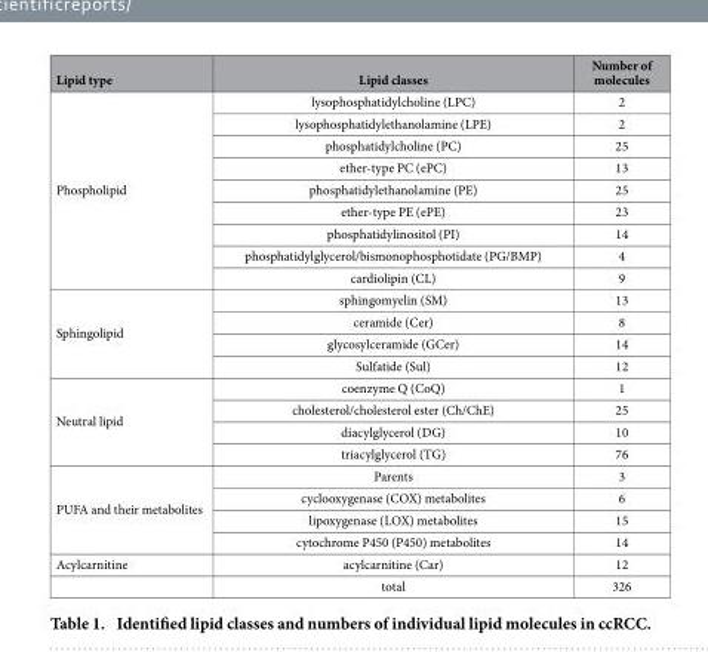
<table><thead><tr><td>Lipid type</td><td>Lipid classes</td><td>Number of molecules</td></tr></thead><tbody><tr><td rowspan="9">Phospholipid</td><td>lysophosphatidylcholine (LPC)</td><td>2</td></tr><tr><td>lysophosphatidylethanolamine (LPE)</td><td>2</td></tr><tr><td>phosphatidylcholine (PC)</td><td>25</td></tr><tr><td>ether-type PC (ePC)</td><td>13</td></tr><tr><td>phosphatidylethanolamine (PE)</td><td>25</td></tr><tr><td>ether-type PE (ePE)</td><td>23</td></tr><tr><td>phosphatidylinositol (PI)</td><td>14</td></tr><tr><td>phosphatidylglycerol/bismonophosphotidate (PG/BMP)</td><td>4</td></tr><tr><td>cardiolipin (CL)</td><td>9</td></tr><tr><td rowspan="4">Sphingolipid</td><td>sphingomyelin (SM)</td><td>13</td></tr><tr><td>ceramide (Cer)</td><td>8</td></tr><tr><td>glycosylceramide (GCer)</td><td>14</td></tr><tr><td>Sulfatide (Sul)</td><td>12</td></tr><tr><td rowspan="4">Neutral lipid</td><td>coenzyme Q (CoQ)</td><td>1</td></tr><tr><td>cholesterol/cholesterol ester (Ch/ChE)</td><td>25</td></tr><tr><td>diacylglycerol (DG)</td><td>10</td></tr><tr><td>triacylglycerol (TG)</td><td>76</td></tr><tr><td rowspan="4">PUFA and their metabolites</td><td>Parents</td><td>3</td></tr><tr><td>cyclooxygenase (COX) metabolites</td><td>6</td></tr><tr><td>lipoxygenase (LOX) metabolites</td><td>15</td></tr><tr><td>cytochrome P450 (P450) metabolites</td><td>14</td></tr><tr><td rowspan="2">Acylcarnitine</td><td>acylcarnitine (Car)</td><td>12</td></tr><tr><td>total</td><td>326</td></tr></tbody></table>